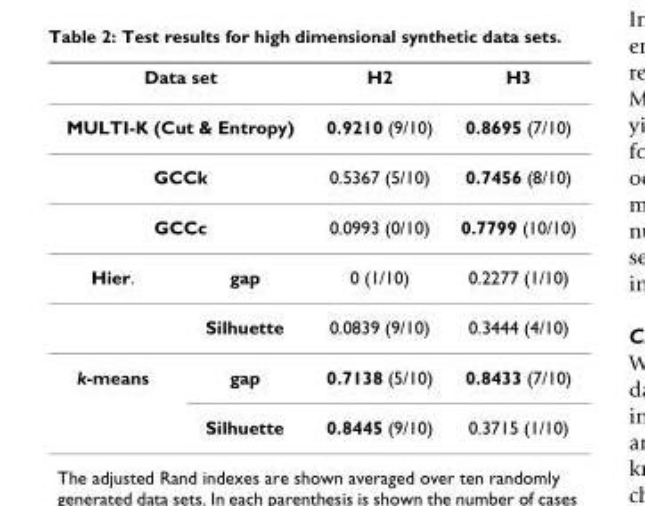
<table><thead><tr><td colspan="2">Data set</td><td>H2</td><td>H3</td></tr></thead><tbody><tr><td colspan="2">MULTI-K (Cut &amp; Entropy)</td><td>0.9210 (9/10)</td><td>0.8695 (7/10)</td></tr><tr><td colspan="2">GCCk</td><td>0.5367 (5/10)</td><td>0.7456 (8/10)</td></tr><tr><td colspan="2">GCCc</td><td>0.0993 (0/10)</td><td>0.7799 (10/10)</td></tr><tr><td rowspan="2">Hier.</td><td>gap</td><td>0 (1/10)</td><td>0.2277 (1/10)</td></tr><tr><td>Silhuette</td><td>0.0839 (9/10)</td><td>0.3444 (4/10)</td></tr><tr><td rowspan="2">k-means</td><td>gap</td><td>0.7138 (5/10)</td><td>0.8433 (7/10)</td></tr><tr><td>Silhuette</td><td>0.8445 (9/10)</td><td>0.3715 (1/10)</td></tr></tbody></table>